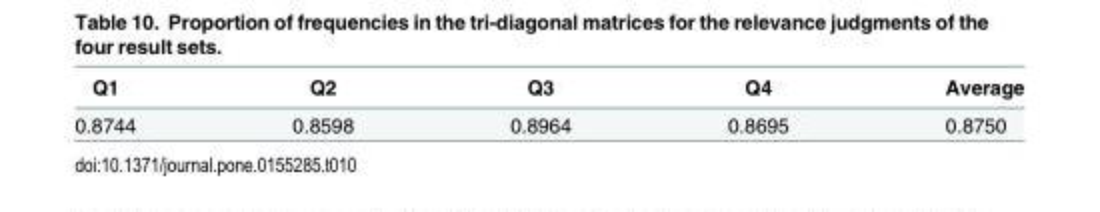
<table><thead><tr><td>Q1</td><td>Q2</td><td>Q3</td><td>Q4</td><td>Average</td></tr></thead><tbody><tr><td>0.8744</td><td>0.8598</td><td>0.8964</td><td>0.8695</td><td>0.8750</td></tr></tbody></table>